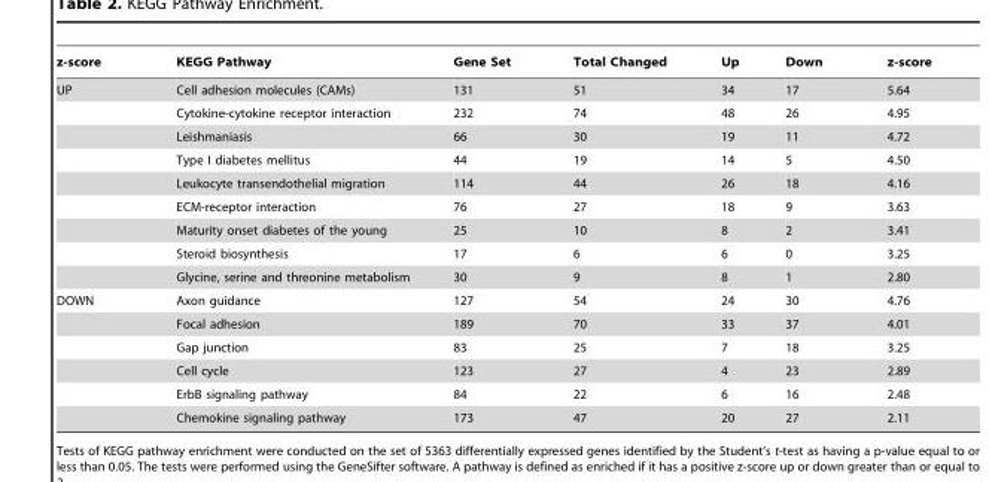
<table><thead><tr><td>z-score</td><td>KEGG Pathway</td><td>Gene Set</td><td>Total Changed</td><td>Up</td><td>Down</td><td>z-score</td></tr></thead><tbody><tr><td rowspan="9">UP</td><td>Cell adhesion molecules (CAMs)</td><td>131</td><td>51</td><td>34</td><td>17</td><td>5.64</td></tr><tr><td>Cytokine-cytokine receptor interaction</td><td>232</td><td>74</td><td>48</td><td>26</td><td>4.95</td></tr><tr><td>Leishmaniasis</td><td>66</td><td>30</td><td>19</td><td>11</td><td>4.72</td></tr><tr><td>Type I diabetes mellitus</td><td>44</td><td>19</td><td>14</td><td>5</td><td>4.50</td></tr><tr><td>Leukocyte transendothelial migration</td><td>114</td><td>44</td><td>26</td><td>18</td><td>4.16</td></tr><tr><td>ECM-receptor interaction</td><td>76</td><td>27</td><td>18</td><td>9</td><td>3.63</td></tr><tr><td>Maturity onset diabetes of the young</td><td>25</td><td>10</td><td>8</td><td>2</td><td>3.41</td></tr><tr><td>Steroid biosynthesis</td><td>17</td><td>6</td><td>6</td><td>0</td><td>3.25</td></tr><tr><td>Glycine, serine and threonine metabolism</td><td>30</td><td>9</td><td>8</td><td>1</td><td>2.80</td></tr><tr><td rowspan="6">DOWN</td><td>Axon guidance</td><td>127</td><td>54</td><td>24</td><td>30</td><td>4.76</td></tr><tr><td>Focal adhesion</td><td>189</td><td>70</td><td>33</td><td>37</td><td>4.01</td></tr><tr><td>Gap junction</td><td>83</td><td>25</td><td>7</td><td>18</td><td>3.25</td></tr><tr><td>Cell cycle</td><td>123</td><td>27</td><td>4</td><td>23</td><td>2.89</td></tr><tr><td>ErbB signaling pathway</td><td>84</td><td>22</td><td>6</td><td>16</td><td>2.48</td></tr><tr><td>Chemokine signaling pathway</td><td>173</td><td>47</td><td>20</td><td>27</td><td>2.11</td></tr></tbody></table>